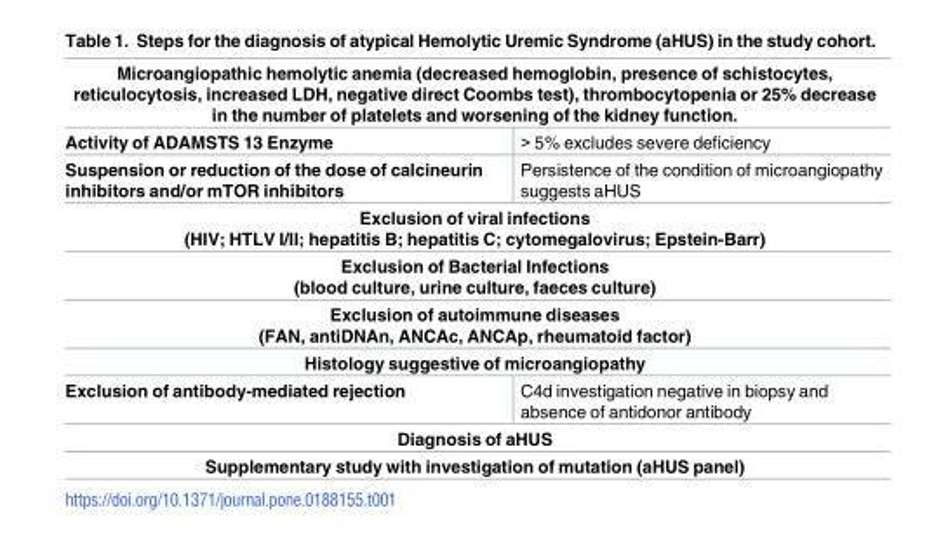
<table><thead><tr><td colspan="2">Microangiopathic hemolytic anemia (decreased hemoglobin, presence of schistocytes, reticulocytosis, increased LDH, negative direct Coombs test), thrombocytopenia or 25% decrease in the number of platelets and worsening of the kidney function.</td></tr><tr><td>Activity of ADAMSTS 13 Enzyme</td><td>&gt; 5% excludes severe deficiency</td></tr></thead><tbody><tr><td>Suspension or reduction of the dose of calcineurin inhibitors and/or mTOR inhibitors</td><td>Persistence of the condition of microangiopathy suggests aHUS</td></tr><tr><td colspan="2">Exclusion of viral infections (HIV; HTLV I/II; hepatitis B; hepatitis C; cytomegalovirus; Epstein-Barr)</td></tr><tr><td colspan="2">Exclusion of Bacterial Infections (blood culture, urine culture, faeces culture)</td></tr><tr><td colspan="2">Exclusion of autoimmune diseases (FAN, antiDNAn, ANCAc, ANCAp, rheumatoid factor)</td></tr><tr><td colspan="2">Histology suggestive of microangiopathy</td></tr><tr><td>Exclusion of antibody-mediated rejection</td><td>C4d investigation negative in biopsy and absence of antidonor antibody</td></tr><tr><td colspan="2">Diagnosis of aHUS</td></tr><tr><td colspan="2">Supplementary study with investigation of mutation (aHUS panel)</td></tr></tbody></table>